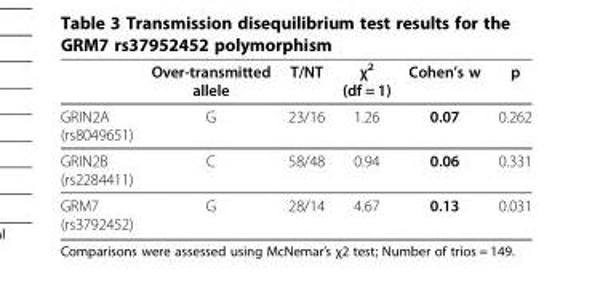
<table><thead><tr><td></td><td>Over-transmitted allele</td><td>T/NT</td><td>χ<sup>2</sup> (df = 1)</td><td>Cohen’s w</td><td>p</td></tr></thead><tbody><tr><td>GRIN2A (rs8049651)</td><td>G</td><td>23/16</td><td>1.26</td><td>0.07</td><td>0.262</td></tr><tr><td>GRIN2B (rs2284411)</td><td>C</td><td>58/48</td><td>0.94</td><td>0.06</td><td>0.331</td></tr><tr><td>GRM7 (rs3792452)</td><td>G</td><td>28/14</td><td>4.67</td><td>0.13</td><td>0.031</td></tr></tbody></table>